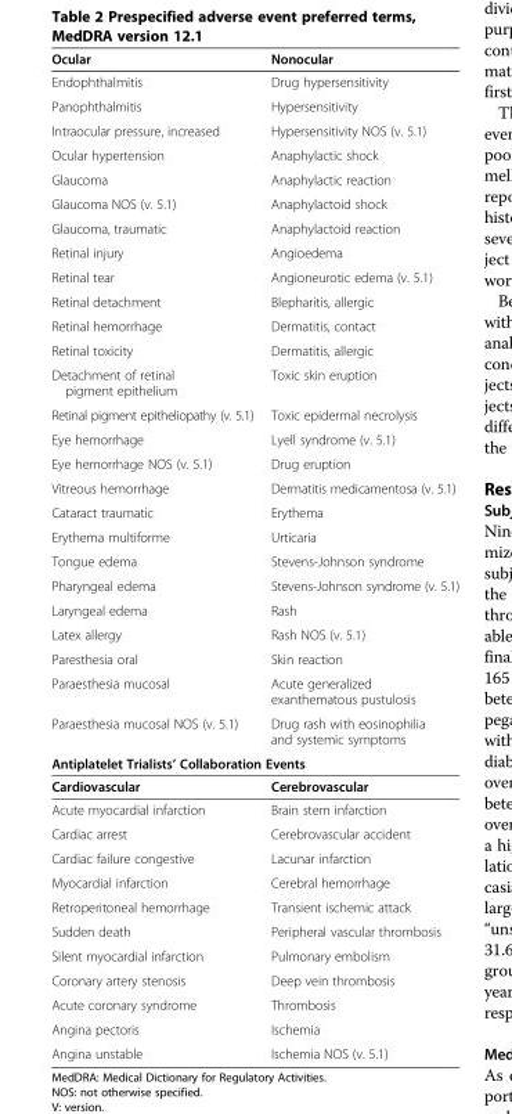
<table><thead><tr><td>Ocular</td><td>Nonocular</td></tr></thead><tbody><tr><td>Endophthalmitis</td><td>Drug hypersensitivity</td></tr><tr><td>Panophthalmitis</td><td>Hypersensitivity</td></tr><tr><td>Intraocular pressure, increased</td><td>Hypersensitivity NOS (v. 5.1)</td></tr><tr><td>Ocular hypertension</td><td>Anaphylactic shock</td></tr><tr><td>Glaucoma</td><td>Anaphylactic reaction</td></tr><tr><td>Glaucoma NOS (v. 5.1)</td><td>Anaphylactoid shock</td></tr><tr><td>Glaucoma, traumatic</td><td>Anaphylactoid reaction</td></tr><tr><td>Retinal injury</td><td>Angioedema</td></tr><tr><td>Retinal tear</td><td>Angioneurotic edema (v. 5.1)</td></tr><tr><td>Retinal detachment</td><td>Blepharitis, allergic</td></tr><tr><td>Retinal hemorrhage</td><td>Dermatitis, contact</td></tr><tr><td>Retinal toxicity</td><td>Dermatitis, allergic</td></tr><tr><td>Detachment of retinal pigment epithelium</td><td>Toxic skin eruption</td></tr><tr><td>Retinal pigment epitheliopathy (v. 5.1)</td><td>Toxic epidermal necrolysis</td></tr><tr><td>Eye hemorrhage</td><td>Lyell syndrome (v. 5.1)</td></tr><tr><td>Eye hemorrhage NOS (v. 5.1)</td><td>Drug eruption</td></tr><tr><td>Vitreous hemorrhage</td><td>Dermatitis medicamentosa (v. 5.1)</td></tr><tr><td>Cataract traumatic</td><td>Erythema</td></tr><tr><td>Erythema multiforme</td><td>Urticaria</td></tr><tr><td>Tongue edema</td><td>Stevens-Johnson syndrome</td></tr><tr><td>Pharyngeal edema</td><td>Stevens-Johnson syndrome (v. 5.1)</td></tr><tr><td>Laryngeal edema</td><td>Rash</td></tr><tr><td>Latex allergy</td><td>Rash NOS (v. 5.1)</td></tr><tr><td>Paresthesia oral</td><td>Skin reaction</td></tr><tr><td>Paraesthesia mucosal</td><td>Acute generalized exanthematous pustulosis</td></tr><tr><td>Paraesthesia mucosal NOS (v. 5.1)</td><td>Drug rash with eosinophilia and systemic symptoms</td></tr><tr><td colspan="2">Antiplatelet Trialists’ Collaboration Events</td></tr><tr><td>Cardiovascular</td><td>Cerebrovascular</td></tr><tr><td>Acute myocardial infarction</td><td>Brain stem infarction</td></tr><tr><td>Cardiac arrest</td><td>Cerebrovascular accident</td></tr><tr><td>Cardiac failure congestive</td><td>Lacunar infarction</td></tr><tr><td>Myocardial infarction</td><td>Cerebral hemorrhage</td></tr><tr><td>Retroperitoneal hemorrhage</td><td>Transient ischemic attack</td></tr><tr><td>Sudden death</td><td>Peripheral vascular thrombosis</td></tr><tr><td>Silent myocardial infarction</td><td>Pulmonary embolism</td></tr><tr><td>Coronary artery stenosis</td><td>Deep vein thrombosis</td></tr><tr><td>Acute coronary syndrome</td><td>Thrombosis</td></tr><tr><td>Angina pectoris</td><td>Ischemia</td></tr><tr><td>Angina unstable</td><td>Ischemia NOS (v. 5.1)</td></tr></tbody></table>